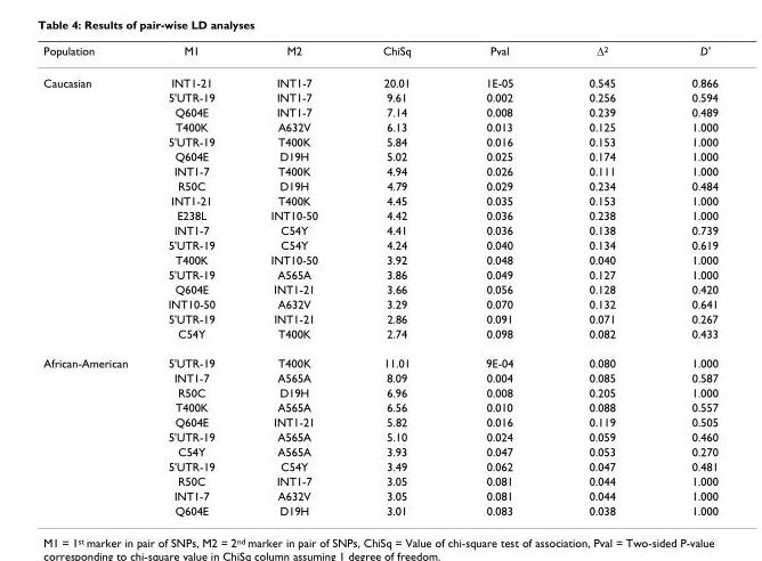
<table><thead><tr><td>Population</td><td>M1</td><td>M2</td><td>ChiSq</td><td>Pval</td><td>∆2</td><td>D&#x27;</td></tr></thead><tbody><tr><td rowspan="18">Caucasian</td><td>INT1-21</td><td>INT1-7</td><td>20.01</td><td>1E-05</td><td>0.545</td><td>0.866</td></tr><tr><td>5&#x27;UTR-19</td><td>INT1-7</td><td>9.61</td><td>0.002</td><td>0.256</td><td>0.594</td></tr><tr><td>Q604E</td><td>INT1-7</td><td>7.14</td><td>0.008</td><td>0.239</td><td>0.489</td></tr><tr><td>T400K</td><td>A632V</td><td>6.13</td><td>0.013</td><td>0.125</td><td>1.000</td></tr><tr><td>5&#x27;UTR-19</td><td>T400K</td><td>5.84</td><td>0.016</td><td>0.153</td><td>1.000</td></tr><tr><td>Q604E</td><td>D19H</td><td>5.02</td><td>0.025</td><td>0.174</td><td>1.000</td></tr><tr><td>INT1-7</td><td>T400K</td><td>4.94</td><td>0.026</td><td>0.111</td><td>1.000</td></tr><tr><td>R50C</td><td>D19H</td><td>4.79</td><td>0.029</td><td>0.234</td><td>0.484</td></tr><tr><td>INT1-21</td><td>T400K</td><td>4.45</td><td>0.035</td><td>0.153</td><td>1.000</td></tr><tr><td>E238L</td><td>INT10-50</td><td>4.42</td><td>0.036</td><td>0.238</td><td>1.000</td></tr><tr><td>INT1-7</td><td>C54Y</td><td>4.41</td><td>0.036</td><td>0.138</td><td>0.739</td></tr><tr><td>5&#x27;UTR-19</td><td>C54Y</td><td>4.24</td><td>0.040</td><td>0.134</td><td>0.619</td></tr><tr><td>T400K</td><td>INT10-50</td><td>3.92</td><td>0.048</td><td>0.040</td><td>1.000</td></tr><tr><td>5&#x27;UTR-19</td><td>A565A</td><td>3.86</td><td>0.049</td><td>0.127</td><td>1.000</td></tr><tr><td>Q604E</td><td>INT1-21</td><td>3.66</td><td>0.056</td><td>0.128</td><td>0.420</td></tr><tr><td>INT10-50</td><td>A632V</td><td>3.29</td><td>0.070</td><td>0.132</td><td>0.641</td></tr><tr><td>5&#x27;UTR-19</td><td>INT1-21</td><td>2.86</td><td>0.091</td><td>0.071</td><td>0.267</td></tr><tr><td>C54Y</td><td>T400K</td><td>2.74</td><td>0.098</td><td>0.082</td><td>0.433</td></tr><tr><td rowspan="11">African-American</td><td>5&#x27;UTR-19</td><td>T400K</td><td>11.01</td><td>9E-04</td><td>0.080</td><td>1.000</td></tr><tr><td>INT1-7</td><td>A565A</td><td>8.09</td><td>0.004</td><td>0.085</td><td>0.587</td></tr><tr><td>R50C</td><td>D19H</td><td>6.96</td><td>0.008</td><td>0.205</td><td>1.000</td></tr><tr><td>T400K</td><td>A565A</td><td>6.56</td><td>0.010</td><td>0.088</td><td>0.557</td></tr><tr><td>Q604E</td><td>INT1-21</td><td>5.82</td><td>0.016</td><td>0.119</td><td>0.505</td></tr><tr><td>5&#x27;UTR-19</td><td>A565A</td><td>5.10</td><td>0.024</td><td>0.059</td><td>0.460</td></tr><tr><td>C54Y</td><td>A565A</td><td>3.93</td><td>0.047</td><td>0.053</td><td>0.270</td></tr><tr><td>5&#x27;UTR-19</td><td>C54Y</td><td>3.49</td><td>0.062</td><td>0.047</td><td>0.481</td></tr><tr><td>R50C</td><td>INT1-7</td><td>3.05</td><td>0.081</td><td>0.044</td><td>1.000</td></tr><tr><td>INT1-7</td><td>A632V</td><td>3.05</td><td>0.081</td><td>0.044</td><td>1.000</td></tr><tr><td>Q604E</td><td>D19H</td><td>3.01</td><td>0.083</td><td>0.038</td><td>1.000</td></tr></tbody></table>